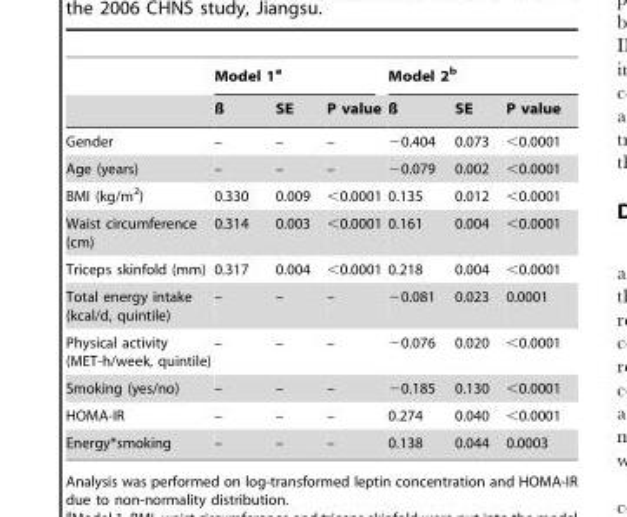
<table><thead><tr><td rowspan="2"></td><td colspan="3">Model 1<sup>a</sup></td><td colspan="3">Model 2<sup>b</sup></td></tr><tr><td>ß</td><td>SE</td><td>P value</td><td>ß</td><td>SE</td><td>P value</td></tr></thead><tbody><tr><td>Gender</td><td>–</td><td>–</td><td>–</td><td>−0.404</td><td>0.073</td><td>&lt;0.0001</td></tr><tr><td>Age (years)</td><td>–</td><td>–</td><td>–</td><td>−0.079</td><td>0.002</td><td>&lt;0.0001</td></tr><tr><td>BMI (kg/m<sup>2</sup>)</td><td>0.330</td><td>0.009</td><td>&lt;0.0001</td><td>0.135</td><td>0.012</td><td>&lt;0.0001</td></tr><tr><td>Waist circumference (cm)</td><td>0.314</td><td>0.003</td><td>&lt;0.0001</td><td>0.161</td><td>0.004</td><td>&lt;0.0001</td></tr><tr><td>Triceps skinfold (mm)</td><td>0.317</td><td>0.004</td><td>&lt;0.0001</td><td>0.218</td><td>0.004</td><td>&lt;0.0001</td></tr><tr><td>Total energy intake (kcal/d, quintile)</td><td>–</td><td>–</td><td>–</td><td>−0.081</td><td>0.023</td><td>0.0001</td></tr><tr><td>Physical activity (MET-h/week, quintile)</td><td>–</td><td>–</td><td>–</td><td>−0.076</td><td>0.020</td><td>&lt;0.0001</td></tr><tr><td>Smoking (yes/no)</td><td>–</td><td>–</td><td>–</td><td>−0.185</td><td>0.130</td><td>&lt;0.0001</td></tr><tr><td>HOMA-IR</td><td>–</td><td>–</td><td>–</td><td>0.274</td><td>0.040</td><td>&lt;0.0001</td></tr><tr><td>Energy*smoking</td><td>–</td><td>–</td><td>–</td><td>0.138</td><td>0.044</td><td>0.0003</td></tr></tbody></table>